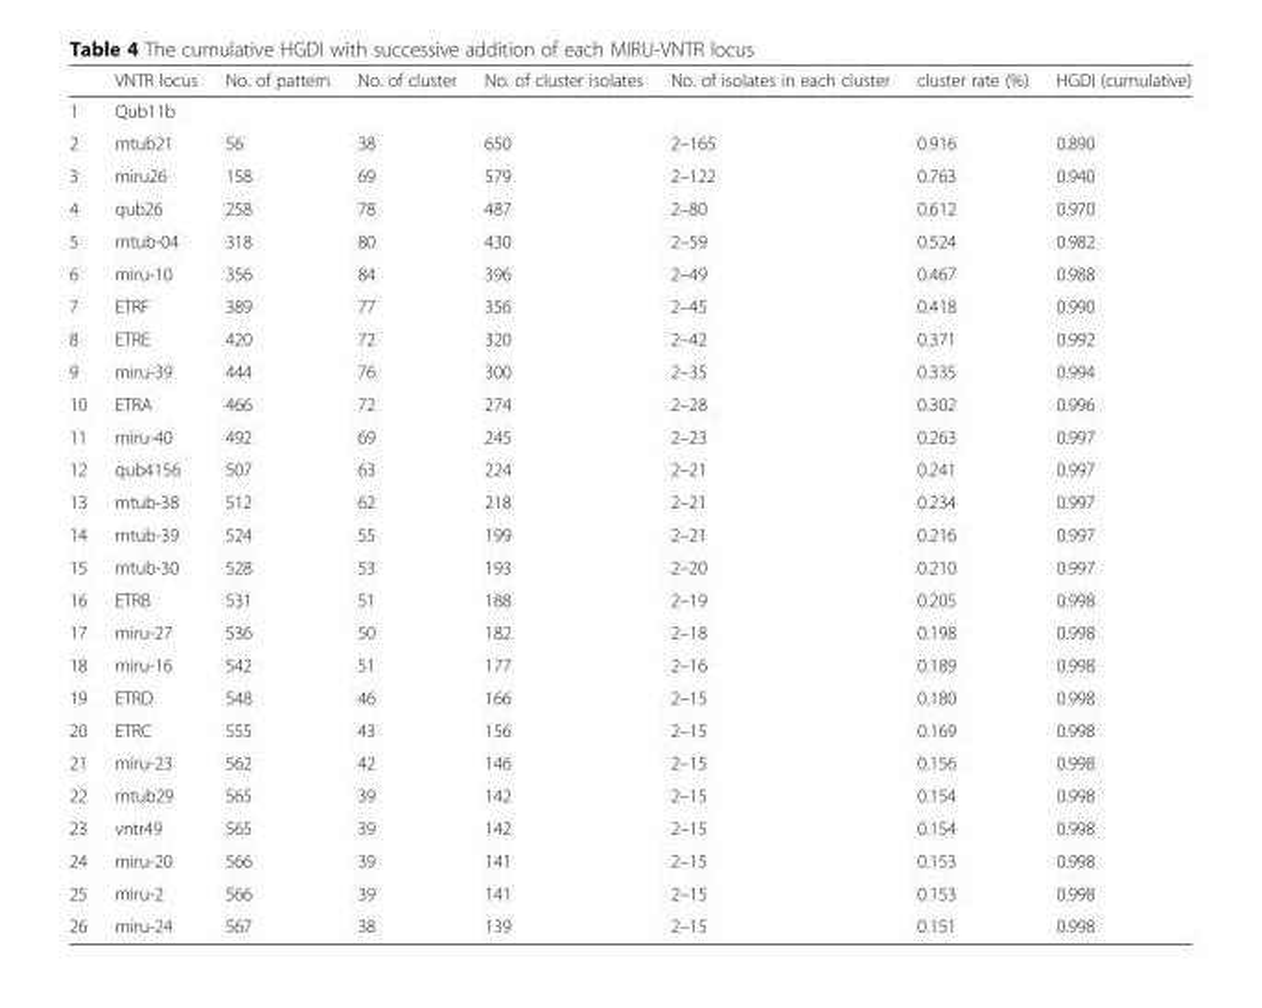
<table><thead><tr><td></td><td>VNTR locus</td><td>No. of pattern</td><td>No. of cluster</td><td>No. of cluster isolates</td><td>No. of isolates in each cluster</td><td>cluster rate (%)</td><td>HGDI (cumulative)</td></tr></thead><tbody><tr><td>1</td><td>Qub11b</td><td></td><td></td><td></td><td></td><td></td><td></td></tr><tr><td>2</td><td>mtub21</td><td>56</td><td>38</td><td>650</td><td>2–165</td><td>0.916</td><td>0.890</td></tr><tr><td>3</td><td>miru26</td><td>158</td><td>69</td><td>579</td><td>2–122</td><td>0.763</td><td>0.940</td></tr><tr><td>4</td><td>qub26</td><td>258</td><td>78</td><td>487</td><td>2–80</td><td>0.612</td><td>0.970</td></tr><tr><td>5</td><td>mtub-04</td><td>318</td><td>80</td><td>430</td><td>2–59</td><td>0.524</td><td>0.982</td></tr><tr><td>6</td><td>miru-10</td><td>356</td><td>84</td><td>396</td><td>2–49</td><td>0.467</td><td>0.988</td></tr><tr><td>7</td><td>ETRF</td><td>389</td><td>77</td><td>356</td><td>2–45</td><td>0.418</td><td>0.990</td></tr><tr><td>8</td><td>ETRE</td><td>420</td><td>72</td><td>320</td><td>2–42</td><td>0.371</td><td>0.992</td></tr><tr><td>9</td><td>miru-39</td><td>444</td><td>76</td><td>300</td><td>2–35</td><td>0.335</td><td>0.994</td></tr><tr><td>10</td><td>ETRA</td><td>466</td><td>72</td><td>274</td><td>2–28</td><td>0.302</td><td>0.996</td></tr><tr><td>11</td><td>miru-40</td><td>492</td><td>69</td><td>245</td><td>2–23</td><td>0.263</td><td>0.997</td></tr><tr><td>12</td><td>qub4156</td><td>507</td><td>63</td><td>224</td><td>2–21</td><td>0.241</td><td>0.997</td></tr><tr><td>13</td><td>mtub-38</td><td>512</td><td>62</td><td>218</td><td>2–21</td><td>0.234</td><td>0.997</td></tr><tr><td>14</td><td>mtub-39</td><td>524</td><td>55</td><td>199</td><td>2–21</td><td>0.216</td><td>0.997</td></tr><tr><td>15</td><td>mtub-30</td><td>528</td><td>53</td><td>193</td><td>2–20</td><td>0.210</td><td>0.997</td></tr><tr><td>16</td><td>ETRB</td><td>531</td><td>51</td><td>188</td><td>2–19</td><td>0.205</td><td>0.998</td></tr><tr><td>17</td><td>miru-27</td><td>536</td><td>50</td><td>182</td><td>2–18</td><td>0.198</td><td>0.998</td></tr><tr><td>18</td><td>miru-16</td><td>542</td><td>51</td><td>177</td><td>2–16</td><td>0.189</td><td>0.998</td></tr><tr><td>19</td><td>ETRD</td><td>548</td><td>46</td><td>166</td><td>2–15</td><td>0.180</td><td>0.998</td></tr><tr><td>20</td><td>ETRC</td><td>555</td><td>43</td><td>156</td><td>2–15</td><td>0.169</td><td>0.998</td></tr><tr><td>21</td><td>miru-23</td><td>562</td><td>42</td><td>146</td><td>2–15</td><td>0.156</td><td>0.998</td></tr><tr><td>22</td><td>mtub29</td><td>565</td><td>39</td><td>142</td><td>2–15</td><td>0.154</td><td>0.998</td></tr><tr><td>23</td><td>vntr49</td><td>565</td><td>39</td><td>142</td><td>2–15</td><td>0.154</td><td>0.998</td></tr><tr><td>24</td><td>miru-20</td><td>566</td><td>39</td><td>141</td><td>2–15</td><td>0.153</td><td>0.998</td></tr><tr><td>25</td><td>miru-2</td><td>566</td><td>39</td><td>141</td><td>2–15</td><td>0.153</td><td>0.998</td></tr><tr><td>26</td><td>miru-24</td><td>567</td><td>38</td><td>139</td><td>2–15</td><td>0.151</td><td>0.998</td></tr></tbody></table>